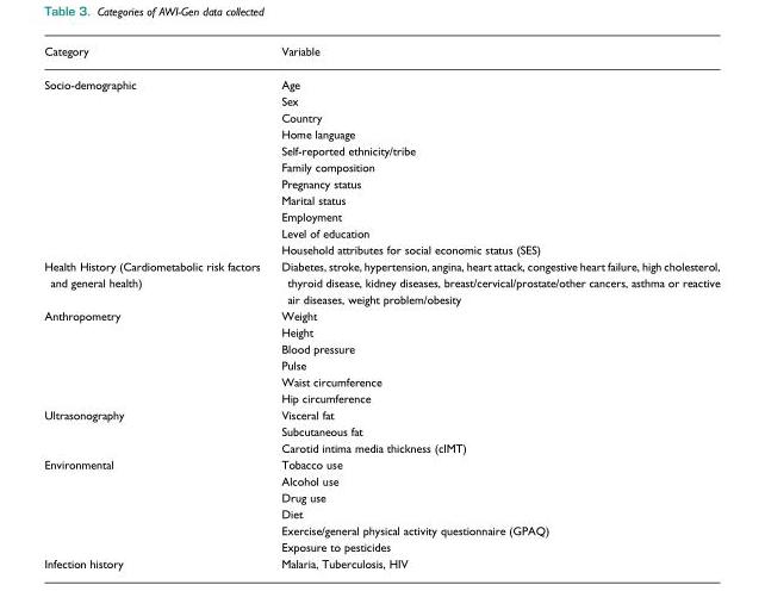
<table><thead><tr><td>Category</td><td>Variable</td></tr></thead><tbody><tr><td rowspan="11">Socio-demographic</td><td>Age</td></tr><tr><td>Sex</td></tr><tr><td>Country</td></tr><tr><td>Home language</td></tr><tr><td>Self-reported ethnicity/tribe</td></tr><tr><td>Family composition</td></tr><tr><td>Pregnancy status</td></tr><tr><td>Marital status</td></tr><tr><td>Employment</td></tr><tr><td>Level of education</td></tr><tr><td>Household attributes for social economic status (SES)</td></tr><tr><td>Health History (Cardiometabolic risk factors and general health)</td><td>Diabetes, stroke, hypertension, angina, heart attack, congestive heart failure, high cholesterol, thyroid disease, kidney diseases, breast/cervical/prostate/other cancers, asthma or reactive air diseases, weight problem/obesity</td></tr><tr><td rowspan="6">Anthropometry</td><td>Weight</td></tr><tr><td>Height</td></tr><tr><td>Blood pressure</td></tr><tr><td>Pulse</td></tr><tr><td>Waist circumference</td></tr><tr><td>Hip circumference</td></tr><tr><td rowspan="3">Ultrasonography</td><td>Visceral fat</td></tr><tr><td>Subcutaneous fat</td></tr><tr><td>Carotid intima media thickness (cIMT)</td></tr><tr><td rowspan="6">Environmental</td><td>Tobacco use</td></tr><tr><td>Alcohol use</td></tr><tr><td>Drug use</td></tr><tr><td>Diet</td></tr><tr><td>Exercise/general physical activity questionnaire (GPAQ)</td></tr><tr><td>Exposure to pesticides</td></tr><tr><td>Infection history</td><td>Malaria, Tuberculosis, HIV</td></tr></tbody></table>